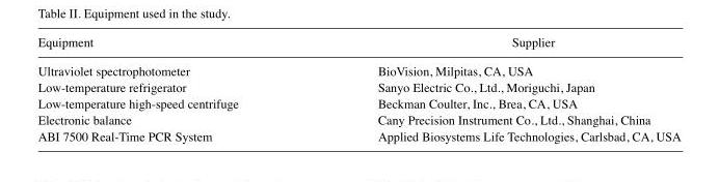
<table><thead><tr><td>Equipment</td><td>Supplier</td></tr></thead><tbody><tr><td>Ultraviolet spectrophotometer</td><td>BioVision, Milpitas, CA, USA</td></tr><tr><td>Low-temperature refrigerator</td><td>Sanyo Electric Co., Ltd., Moriguchi, Japan</td></tr><tr><td>Low-temperature high-speed centrifuge</td><td>Beckman Coulter, Inc., Brea, CA, USA</td></tr><tr><td>Electronic balance</td><td>Cany Precision Instrument Co., Ltd., Shanghai, China</td></tr><tr><td>ABI 7500 Real-Time PCR System</td><td>Applied Biosystems Life Technologies, Carlsbad, CA, USA</td></tr></tbody></table>